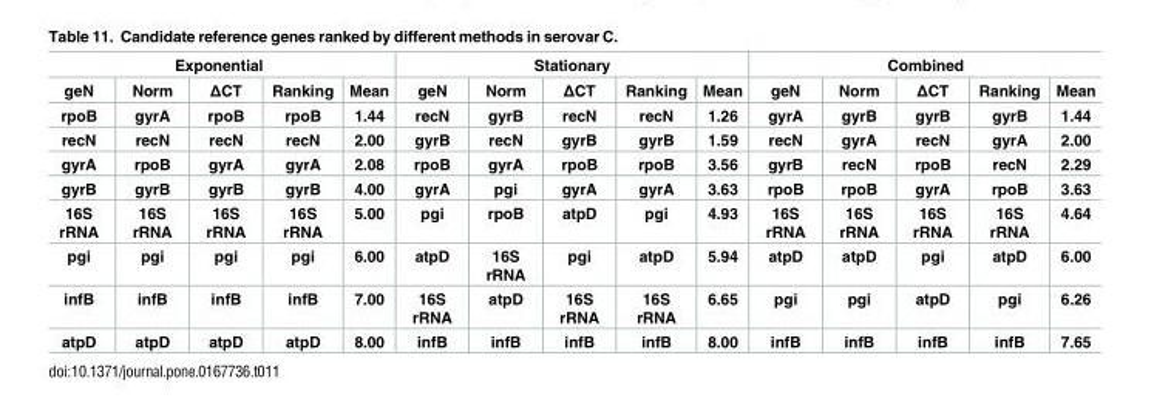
<table><thead><tr><td colspan="5">Exponential</td><td colspan="5">Stationary</td><td colspan="5">Combined</td></tr><tr><td>geN</td><td>Norm</td><td>ΔCT</td><td>Ranking</td><td>Mean</td><td>geN</td><td>Norm</td><td>ΔCT</td><td>Ranking</td><td>Mean</td><td>geN</td><td>Norm</td><td>ΔCT</td><td>Ranking</td><td>Mean</td></tr></thead><tbody><tr><td>rpoB</td><td>gyrA</td><td>rpoB</td><td>rpoB</td><td>1.44</td><td>recN</td><td>gyrB</td><td>recN</td><td>recN</td><td>1.26</td><td>gyrA</td><td>gyrB</td><td>gyrB</td><td>gyrB</td><td>1.44</td></tr><tr><td>recN</td><td>recN</td><td>recN</td><td>recN</td><td>2.00</td><td>gyrB</td><td>recN</td><td>gyrB</td><td>gyrB</td><td>1.59</td><td>recN</td><td>gyrA</td><td>recN</td><td>gyrA</td><td>2.00</td></tr><tr><td>gyrA</td><td>rpoB</td><td>gyrA</td><td>gyrA</td><td>2.08</td><td>rpoB</td><td>gyrA</td><td>rpoB</td><td>rpoB</td><td>3.56</td><td>gyrB</td><td>recN</td><td>rpoB</td><td>recN</td><td>2.29</td></tr><tr><td>gyrB</td><td>gyrB</td><td>gyrB</td><td>gyrB</td><td>4.00</td><td>gyrA</td><td>pgi</td><td>gyrA</td><td>gyrA</td><td>3.63</td><td>rpoB</td><td>rpoB</td><td>gyrA</td><td>rpoB</td><td>3.63</td></tr><tr><td>16S rRNA</td><td>16S rRNA</td><td>16S rRNA</td><td>16S rRNA</td><td>5.00</td><td>pgi</td><td>rpoB</td><td>atpD</td><td>pgi</td><td>4.93</td><td>16S rRNA</td><td>16S rRNA</td><td>16S rRNA</td><td>16S rRNA</td><td>4.64</td></tr><tr><td>pgi</td><td>pgi</td><td>pgi</td><td>pgi</td><td>6.00</td><td>atpD</td><td>16S rRNA</td><td>pgi</td><td>atpD</td><td>5.94</td><td>atpD</td><td>atpD</td><td>pgi</td><td>atpD</td><td>6.00</td></tr><tr><td>infB</td><td>infB</td><td>infB</td><td>infB</td><td>7.00</td><td>16S rRNA</td><td>atpD</td><td>16S rRNA</td><td>16S rRNA</td><td>6.65</td><td>pgi</td><td>pgi</td><td>atpD</td><td>pgi</td><td>6.26</td></tr><tr><td>atpD</td><td>atpD</td><td>atpD</td><td>atpD</td><td>8.00</td><td>infB</td><td>infB</td><td>infB</td><td>infB</td><td>8.00</td><td>infB</td><td>infB</td><td>infB</td><td>infB</td><td>7.65</td></tr></tbody></table>